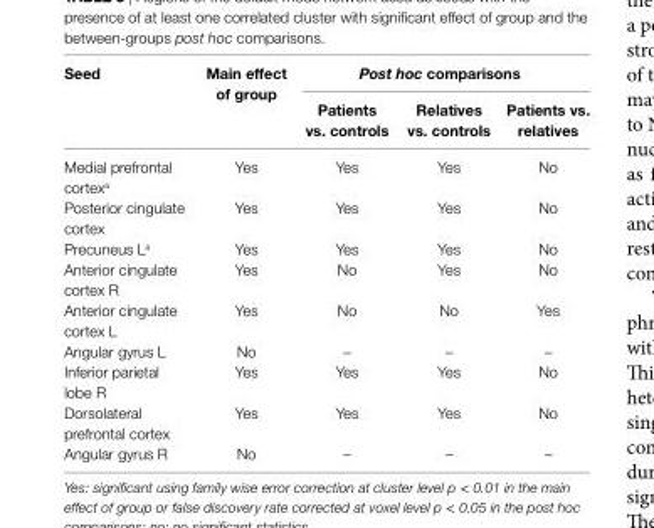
<table><thead><tr><td rowspan="2">seed</td><td rowspan="2">Main effect of group</td><td colspan="3">Post hoc comparisons</td></tr><tr><td>Patients vs. controls</td><td>relatives vs. controls</td><td>Patients vs. relatives</td></tr></thead><tbody><tr><td>Medial prefrontal cortex<sup>a</sup></td><td>Yes</td><td>Yes</td><td>Yes</td><td>No</td></tr><tr><td>Posterior cingulate cortex</td><td>Yes</td><td>Yes</td><td>Yes</td><td>No</td></tr><tr><td>Precuneus L<sup>a</sup></td><td>Yes</td><td>Yes</td><td>Yes</td><td>No</td></tr><tr><td>Anterior cingulate cortex R</td><td>Yes</td><td>No</td><td>Yes</td><td>No</td></tr><tr><td>Anterior cingulate cortex L</td><td>Yes</td><td>No</td><td>No</td><td>Yes</td></tr><tr><td>Angular gyrus L</td><td>No</td><td>–</td><td>–</td><td>–</td></tr><tr><td>Inferior parietal lobe R</td><td>Yes</td><td>Yes</td><td>Yes</td><td>No</td></tr><tr><td>Dorsolateral prefrontal cortex</td><td>Yes</td><td>Yes</td><td>Yes</td><td>No</td></tr><tr><td>Angular gyrus R</td><td>No</td><td>–</td><td>–</td><td>–</td></tr></tbody></table>